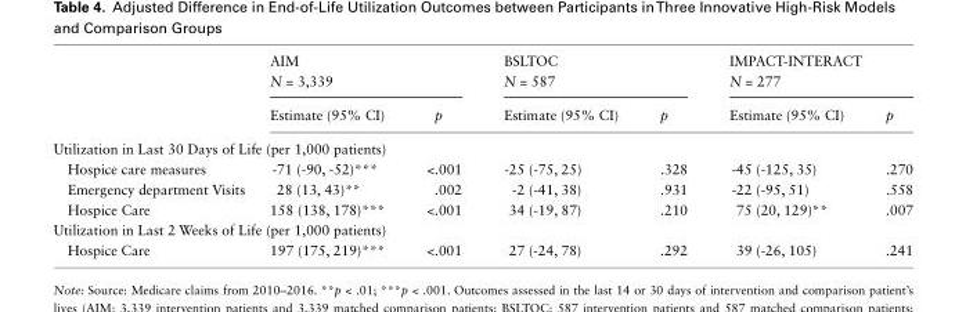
<table><thead><tr><td rowspan="2"></td><td colspan="2">AIM N = 3,339</td><td colspan="2">BSLTOC N = 587</td><td colspan="2">IMPACT-INTERACT N = 277</td></tr><tr><td>Estimate (95% CI)</td><td>p</td><td>Estimate (95% CI)</td><td>p</td><td>Estimate (95% CI)</td><td>p</td></tr></thead><tbody><tr><td colspan="7">Utilization in Last 30 Days of Life (per 1,000 patients)</td></tr><tr><td>Hospice care measures</td><td>-71 (-90, -52)***</td><td>&lt;.001</td><td>-25 (-75, 25)</td><td>.328</td><td>-45 (-125, 35)</td><td>.270</td></tr><tr><td>Emergency department Visits</td><td>28 (13, 43)**</td><td>.002</td><td>-2 (-41, 38)</td><td>.931</td><td>-22 (-95, 51)</td><td>.558</td></tr><tr><td>Hospice Care</td><td>158 (138, 178)***</td><td>&lt;.001</td><td>34 (-19, 87)</td><td>.210</td><td>75 (20, 129)**</td><td>.007</td></tr><tr><td colspan="7">Utilization in Last 2 Weeks of Life (per 1,000 patients)</td></tr><tr><td>Hospice Care</td><td>197 (175, 219)***</td><td>&lt;.001</td><td>27 (-24, 78)</td><td>.292</td><td>39 (-26, 105)</td><td>.241</td></tr></tbody></table>